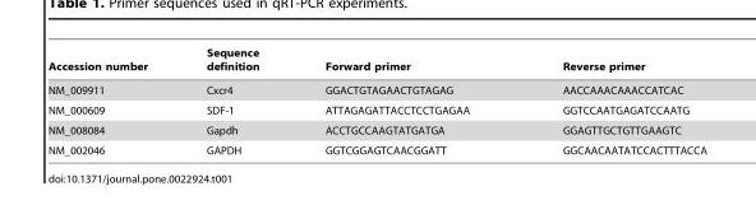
<table><thead><tr><td>Accession number</td><td>Sequence definition</td><td>Forward primer</td><td>Reverse primer</td></tr></thead><tbody><tr><td>NM_009911</td><td>Cxcr4</td><td>GGACTGTAGAACTGTAGAG</td><td>AACCAAACAAACCATCAC</td></tr><tr><td>NM_000609</td><td>SDF-1</td><td>ATTAGAGATTACCTCCTGAGAA</td><td>GGTCCAATGAGATCCAATG</td></tr><tr><td>NM_008084</td><td>Gapdh</td><td>ACCTGCCAAGTATGATGA</td><td>GGAGTTGCTGTTGAAGTC</td></tr><tr><td>NM_002046</td><td>GAPDH</td><td>GGTCGGAGTCAACGGATT</td><td>GGCAACAATATCCACTTTACCA</td></tr></tbody></table>